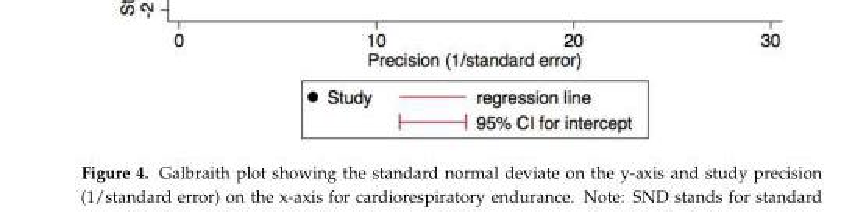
<table><thead><tr><td></td><td>B-Coefficient</td><td>95% Confidence Interval</td><td>p-Value</td></tr></thead><tbody><tr><td>Multi-Component</td><td>–0.09</td><td>–0.40–0.23</td><td>0.560</td></tr><tr><td>Length (weeks)</td><td>0.001</td><td>–0.002–0.004</td><td>0.427</td></tr></tbody></table>